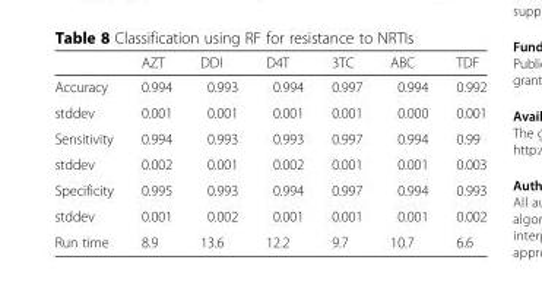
<table><thead><tr><td></td><td>AZT</td><td>DDI</td><td>D4T</td><td>3TC</td><td>ABC</td><td>TDF</td></tr></thead><tbody><tr><td>Accuracy</td><td>0.994</td><td>0.993</td><td>0.994</td><td>0.997</td><td>0.994</td><td>0.992</td></tr><tr><td>stddev</td><td>0.001</td><td>0.001</td><td>0.001</td><td>0.001</td><td>0.000</td><td>0.001</td></tr><tr><td>Sensitivity</td><td>0.994</td><td>0.993</td><td>0.993</td><td>0.997</td><td>0.994</td><td>0.99</td></tr><tr><td>stddev</td><td>0.002</td><td>0.001</td><td>0.002</td><td>0.001</td><td>0.001</td><td>0.003</td></tr><tr><td>Specificity</td><td>0.995</td><td>0.993</td><td>0.994</td><td>0.997</td><td>0.994</td><td>0.993</td></tr><tr><td>stddev</td><td>0.001</td><td>0.002</td><td>0.001</td><td>0.001</td><td>0.001</td><td>0.002</td></tr><tr><td>Run time</td><td>8.9</td><td>13.6</td><td>12.2</td><td>9.7</td><td>10.7</td><td>6.6</td></tr></tbody></table>